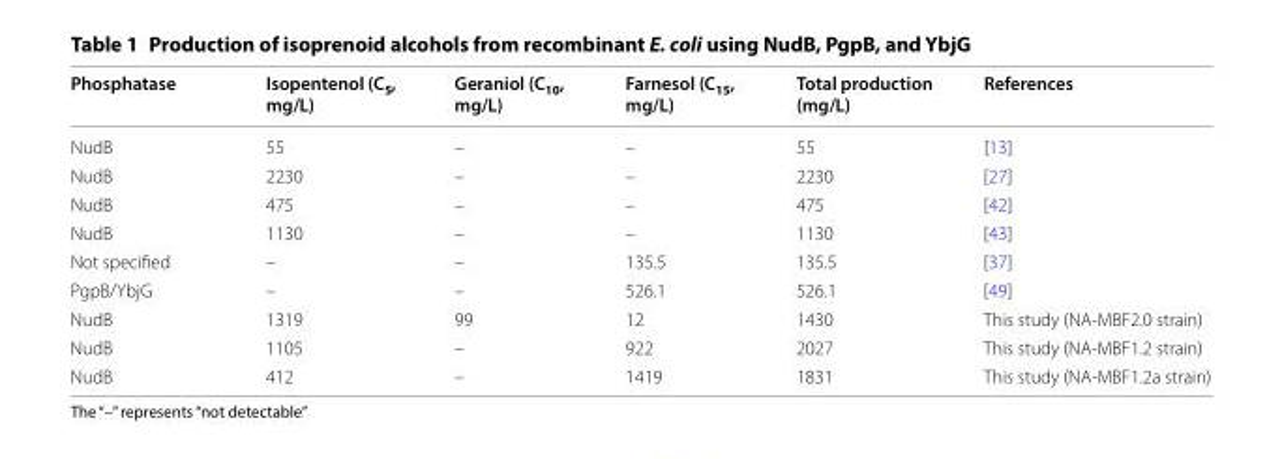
<table><thead><tr><td>Phosphatase</td><td>Isopentenol (C<sub>5</sub>, mg/L)</td><td>Geraniol (C<sub>10</sub>, mg/L)</td><td>Farnesol (C<sub>15</sub>, mg/L)</td><td>Total production (mg/L)</td><td>References</td></tr></thead><tbody><tr><td>NudB</td><td>55</td><td>–</td><td>–</td><td>55</td><td>[13]</td></tr><tr><td>NudB</td><td>2230</td><td>–</td><td>–</td><td>2230</td><td>[27]</td></tr><tr><td>NudB</td><td>475</td><td>–</td><td>–</td><td>475</td><td>[42]</td></tr><tr><td>NudB</td><td>1130</td><td>–</td><td>–</td><td>1130</td><td>[43]</td></tr><tr><td>Not specified</td><td>–</td><td>–</td><td>135.5</td><td>135.5</td><td>[37]</td></tr><tr><td>PgpB/YbjG</td><td>–</td><td>–</td><td>526.1</td><td>526.1</td><td>[49]</td></tr><tr><td>NudB</td><td>1319</td><td>99</td><td>12</td><td>1430</td><td>This study (NA‑MBF2.0 strain)</td></tr><tr><td>NudB</td><td>1105</td><td>–</td><td>922</td><td>2027</td><td>This study (NA‑MBF1.2 strain)</td></tr><tr><td>NudB</td><td>412</td><td>–</td><td>1419</td><td>1831</td><td>This study (NA‑MBF1.2a strain)</td></tr></tbody></table>